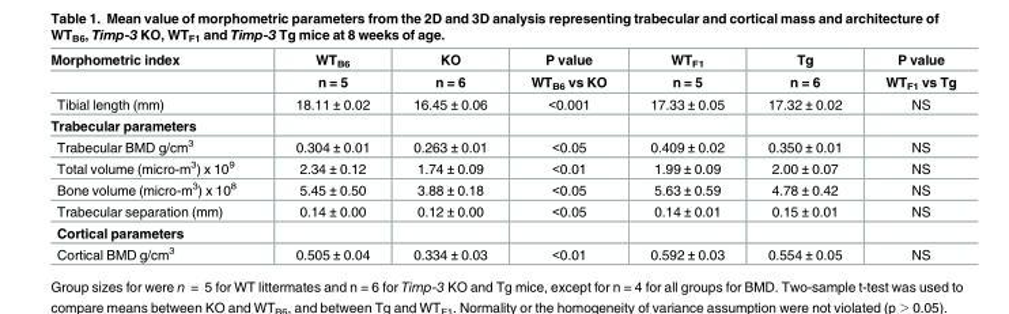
<table><thead><tr><td rowspan="2">Morphometric index</td><td rowspan="2">WT<sub>B6</sub> n = 5</td><td rowspan="2">KO n = 6</td><td rowspan="2">P value WT<sub>B6</sub> vs KO</td><td rowspan="2">WT<sub>F1</sub> n = 5</td><td rowspan="2">Tg n = 6</td><td rowspan="2">P value WT<sub>F1</sub> vs Tg</td></tr><tr></tr></thead><tbody><tr><td>Tibial length (mm)</td><td>18.11 ± 0.02</td><td>16.45 ± 0.06</td><td>&lt;0.001</td><td>17.33 ± 0.05</td><td>17.32 ± 0.02</td><td>NS</td></tr><tr><td colspan="7">Trabecular parameters</td></tr><tr><td>Trabecular BMD g/cm<sup>3</sup></td><td>0.304 ± 0.01</td><td>0.263 ± 0.01</td><td>&lt;0.05</td><td>0.409 ± 0.02</td><td>0.350 ± 0.01</td><td>NS</td></tr><tr><td>Total volume (micro-m<sup>3</sup>) x 10<sup>9</sup></td><td>2.34 ± 0.12</td><td>1.74 ± 0.09</td><td>&lt;0.01</td><td>1.99 ± 0.09</td><td>2.00 ± 0.07</td><td>NS</td></tr><tr><td>Bone volume (micro-m<sup>3</sup>) x 10<sup>8</sup></td><td>5.45 ± 0.50</td><td>3.88 ± 0.18</td><td>&lt;0.05</td><td>5.63 ± 0.59</td><td>4.78 ± 0.42</td><td>NS</td></tr><tr><td>Trabecular separation (mm)</td><td>0.14 ± 0.00</td><td>0.12 ± 0.00</td><td>&lt;0.05</td><td>0.14 ± 0.01</td><td>0.15 ± 0.01</td><td>NS</td></tr><tr><td colspan="7">Cortical parameters</td></tr><tr><td>Cortical BMD g/cm<sup>3</sup></td><td>0.505 ± 0.04</td><td>0.334 ± 0.03</td><td>&lt;0.01</td><td>0.592 ± 0.03</td><td>0.554 ± 0.05</td><td>NS</td></tr></tbody></table>